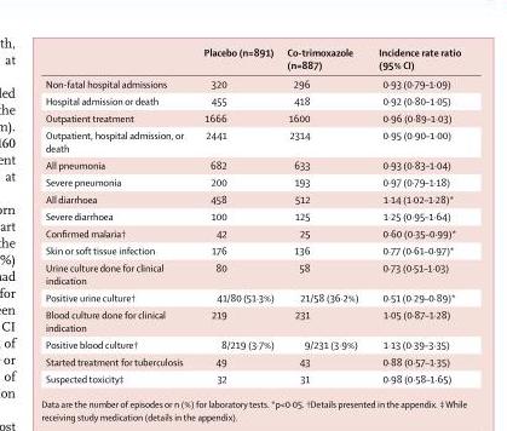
<table><thead><tr><td></td><td>Placebo (n=891)</td><td>Co-trimoxazole (n=887)</td><td>Incidence rate ratio (95% CI)</td></tr></thead><tbody><tr><td>Non-fatal hospital admissions</td><td>320</td><td>296</td><td>0·93 (0·79–1·09)</td></tr><tr><td>Hospital admission or death</td><td>455</td><td>418</td><td>0·92 (0·80–1·05)</td></tr><tr><td>Outpatient treatment</td><td>1666</td><td>1600</td><td>0·96 (0·89–1·03)</td></tr><tr><td>Outpatient, hospital admission, or death</td><td>2441</td><td>2314</td><td>0·95 (0·90–1·00)</td></tr><tr><td>All pneumonia</td><td>682</td><td>633</td><td>0·93 (0·83–1·04)</td></tr><tr><td>Severe pneumonia</td><td>200</td><td>193</td><td>0·97 (0·79–1·18)</td></tr><tr><td>All diarrhoea</td><td>458</td><td>512</td><td>1·14 (1·02–1·28)*</td></tr><tr><td>Severe diarrhoea</td><td>100</td><td>125</td><td>1·25 (0·95–1·64)</td></tr><tr><td>Confi rmed malaria†</td><td>42</td><td>25</td><td>0·60 (0·35–0·99)*</td></tr><tr><td>Skin or soft tissue infection</td><td>176</td><td>136</td><td>0·77 (0·61–0·97)*</td></tr><tr><td>Urine culture done for clinical indication</td><td>80</td><td>58</td><td>0·73 (0·51–1·03)</td></tr><tr><td>Positive urine culture†</td><td>41/80 (51·3%)</td><td>21/58 (36·2%)</td><td>0·51 (0·29–0·89)*</td></tr><tr><td>Blood culture done for clinical indication</td><td>219</td><td>231</td><td>1·05 (0·87–1·28)</td></tr><tr><td>Positive blood culture†</td><td>8/219 (3·7%)</td><td>9/231 (3·9%)</td><td>1·13 (0·39–3·35)</td></tr><tr><td>Started treatment for tuberculosis</td><td>49</td><td>43</td><td>0·88 (0·57–1·35)</td></tr><tr><td>Suspected toxicity‡</td><td>32</td><td>31</td><td>0·98 (0·58–1·65)</td></tr></tbody></table>